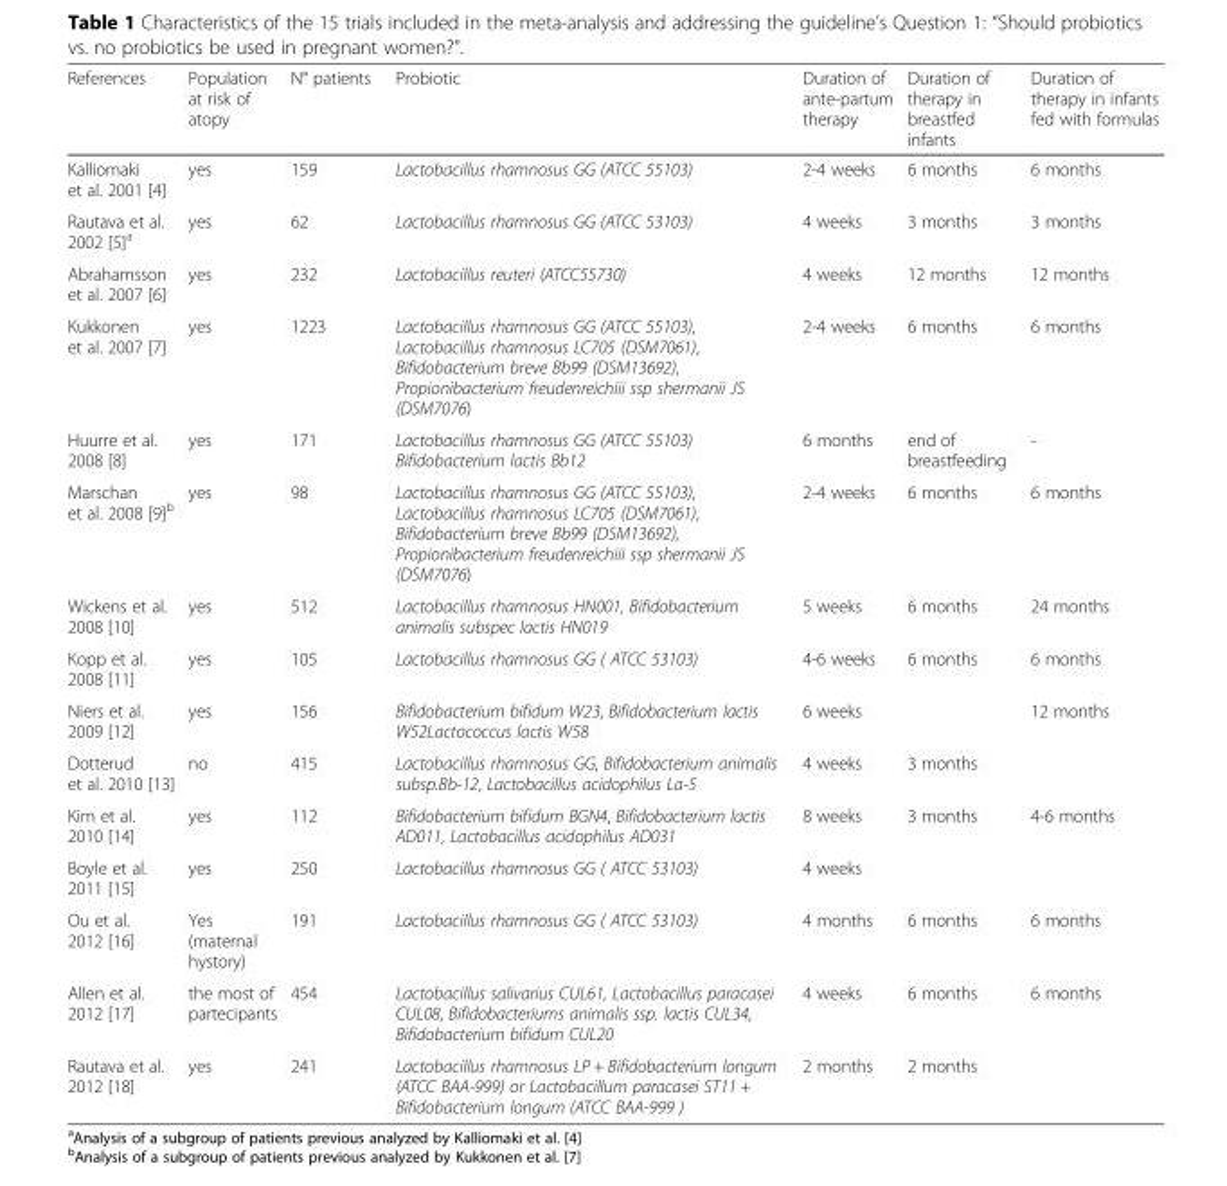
<table><thead><tr><td>References</td><td>Population at risk of atopy</td><td>N° patients</td><td>Probiotic</td><td>Duration of ante-partum therapy</td><td>Duration of therapy in breastfed infants</td><td>Duration of therapy in infants fed with formulas</td></tr></thead><tbody><tr><td>Kalliomaki et al. 2001 [4]</td><td>yes</td><td>159</td><td>Lactobacillus rhamnosus GG (ATCC 55103)</td><td>2-4 weeks</td><td>6 months</td><td>6 months</td></tr><tr><td>Rautava et al. 2002 [5]<sup>a</sup></td><td>yes</td><td>62</td><td>Lactobacillus rhamnosus GG (ATCC 53103)</td><td>4 weeks</td><td>3 months</td><td>3 months</td></tr><tr><td>Abrahamsson et al. 2007 [6]</td><td>yes</td><td>232</td><td>Lactobacillus reuteri (ATCC55730)</td><td>4 weeks</td><td>12 months</td><td>12 months</td></tr><tr><td>Kukkonen et al. 2007 [7]</td><td>yes</td><td>1223</td><td>Lactobacillus rhamnosus GG (ATCC 55103), Lactobacillus rhamnosus LC705 (DSM7061), Bifidobacterium breve Bb99 (DSM13692), Propionibacterium freudenreichiii ssp shermanii JS (DSM7076)</td><td>2-4 weeks</td><td>6 months</td><td>6 months</td></tr><tr><td>Huurre et al. 2008 [8]</td><td>yes</td><td>171</td><td>Lactobacillus rhamnosus GG (ATCC 55103) Bifidobacterium lactis Bb12</td><td>6 months</td><td>end of breastfeeding</td><td>-</td></tr><tr><td>Marschan et al. 2008 [9]<sup>b</sup></td><td>yes</td><td>98</td><td>Lactobacillus rhamnosus GG (ATCC 55103), Lactobacillus rhamnosus LC705 (DSM7061), Bifidobacterium breve Bb99 (DSM13692), Propionibacterium freudenreichiii ssp shermanii JS (DSM7076)</td><td>2-4 weeks</td><td>6 months</td><td>6 months</td></tr><tr><td>Wickens et al. 2008 [10]</td><td>yes</td><td>512</td><td>Lactobacillus rhamnosus HN001, Bifidobacterium animalis subspec lactis HN019</td><td>5 weeks</td><td>6 months</td><td>24 months</td></tr><tr><td>Kopp et al. 2008 [11]</td><td>yes</td><td>105</td><td>Lactobacillus rhamnosus GG ( ATCC 53103)</td><td>4-6 weeks</td><td>6 months</td><td>6 months</td></tr><tr><td>Niers et al. 2009 [12]</td><td>yes</td><td>156</td><td>Bifidobacterium bifidum W23, Bifidobacterium lactis W52Lactococcus lactis W58</td><td>6 weeks</td><td></td><td>12 months</td></tr><tr><td>Dotterud et al. 2010 [13]</td><td>no</td><td>415</td><td>Lactobacillus rhamnosus GG, Bifidobacterium animalis subsp.Bb-12, Lactobacillus acidophilus La-5</td><td>4 weeks</td><td>3 months</td><td></td></tr><tr><td>Kim et al. 2010 [14]</td><td>yes</td><td>112</td><td>Bifidobacterium bifidum BGN4, Bifidobacterium lactis AD011, Lactobacillus acidophilus AD031</td><td>8 weeks</td><td>3 months</td><td>4-6 months</td></tr><tr><td>Boyle et al. 2011 [15]</td><td>yes</td><td>250</td><td>Lactobacillus rhamnosus GG ( ATCC 53103)</td><td>4 weeks</td><td></td><td></td></tr><tr><td>Ou et al. 2012 [16]</td><td>Yes (maternal hystory)</td><td>191</td><td>Lactobacillus rhamnosus GG ( ATCC 53103)</td><td>4 months</td><td>6 months</td><td>6 months</td></tr><tr><td>Allen et al. 2012 [17]</td><td>the most of partecipants</td><td>454</td><td>Lactobacillus salivarius CUL61, Lactobacillus paracasei CUL08, Bifidobacteriums animalis ssp. lactis CUL34, Bifidobacterium bifidum CUL20</td><td>4 weeks</td><td>6 months</td><td>6 months</td></tr><tr><td>Rautava et al. 2012 [18]</td><td>yes</td><td>241</td><td>Lactobacillus rhamnosus LP + Bifidobacterium longum (ATCC BAA-999) or Lactobacillum paracasei ST11 + Bifidobacterium longum (ATCC BAA-999 )</td><td>2 months</td><td>2 months</td><td></td></tr></tbody></table>